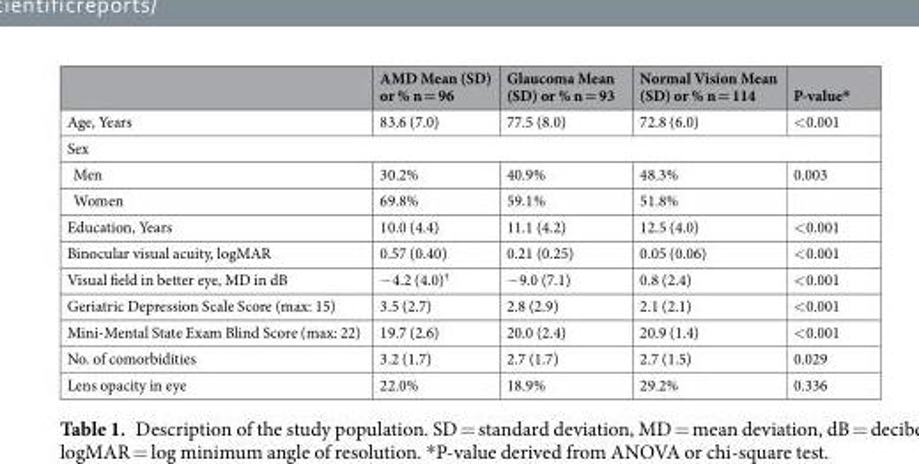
<table><thead><tr><td></td><td>AMD Mean (SD) or % n = 96</td><td>Glaucoma Mean (SD) or % n = 93</td><td>Normal Vision Mean (SD) or % n = 114</td><td>P-value*</td></tr></thead><tbody><tr><td>Age, Years</td><td>83.6 (7.0)</td><td>77.5 (8.0)</td><td>72.8 (6.0)</td><td>&lt;0.001</td></tr><tr><td colspan="5">Sex</td></tr><tr><td>Men</td><td>30.2%</td><td>40.9%</td><td>48.3%</td><td>0.003</td></tr><tr><td>Women</td><td>69.8%</td><td>59.1%</td><td>51.8%</td><td></td></tr><tr><td>Education, Years</td><td>10.0 (4.4)</td><td>11.1 (4.2)</td><td>12.5 (4.0)</td><td>&lt;0.001</td></tr><tr><td>Binocular visual acuity, logMAR</td><td>0.57 (0.40)</td><td>0.21 (0.25)</td><td>0.05 (0.06)</td><td>&lt;0.001</td></tr><tr><td>Visual field in better eye, MD in dB</td><td>−4.2 (4.0)<sup>†</sup></td><td>−9.0 (7.1)</td><td>0.8 (2.4)</td><td>&lt;0.001</td></tr><tr><td>Geriatric Depression Scale Score (max: 15)</td><td>3.5 (2.7)</td><td>2.8 (2.9)</td><td>2.1 (2.1)</td><td>&lt;0.001</td></tr><tr><td>Mini-Mental State Exam Blind Score (max: 22)</td><td>19.7 (2.6)</td><td>20.0 (2.4)</td><td>20.9 (1.4)</td><td>&lt;0.001</td></tr><tr><td>No. of comorbidities</td><td>3.2 (1.7)</td><td>2.7 (1.7)</td><td>2.7 (1.5)</td><td>0.029</td></tr><tr><td>Lens opacity in eye</td><td>22.0%</td><td>18.9%</td><td>29.2%</td><td>0.336</td></tr></tbody></table>